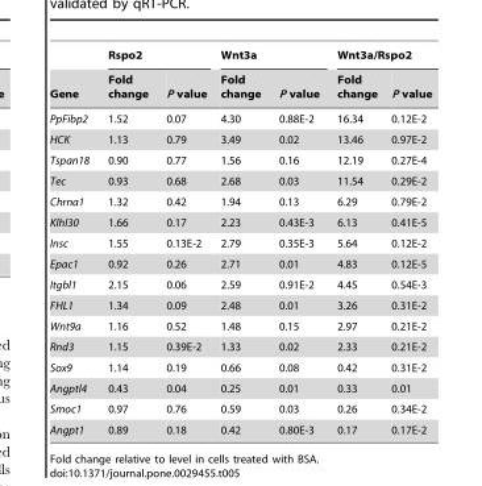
<table><thead><tr><td rowspan="2">Gene</td><td colspan="2">Rspo2</td><td colspan="2">Wnt3a</td><td colspan="2">Wnt3a/Rspo2</td></tr><tr><td>Fold change</td><td>P value</td><td>Fold change</td><td>P value</td><td>Fold change</td><td>P value</td></tr></thead><tbody><tr><td>PpFibp2</td><td>1.52</td><td>0.07</td><td>4.30</td><td>0.88E-2</td><td>16.34</td><td>0.12E-2</td></tr><tr><td>HCK</td><td>1.13</td><td>0.79</td><td>3.49</td><td>0.02</td><td>13.46</td><td>0.97E-2</td></tr><tr><td>Tspan18</td><td>0.90</td><td>0.77</td><td>1.56</td><td>0.16</td><td>12.19</td><td>0.27E-4</td></tr><tr><td>Tec</td><td>0.93</td><td>0.68</td><td>2.68</td><td>0.03</td><td>11.54</td><td>0.29E-2</td></tr><tr><td>Chrna1</td><td>1.32</td><td>0.42</td><td>1.94</td><td>0.13</td><td>6.29</td><td>0.79E-2</td></tr><tr><td>Klhl30</td><td>1.66</td><td>0.17</td><td>2.23</td><td>0.43E-3</td><td>6.13</td><td>0.41E-5</td></tr><tr><td>Insc</td><td>1.55</td><td>0.13E-2</td><td>2.79</td><td>0.35E-3</td><td>5.64</td><td>0.12E-2</td></tr><tr><td>Epac1</td><td>0.92</td><td>0.26</td><td>2.71</td><td>0.01</td><td>4.83</td><td>0.12E-5</td></tr><tr><td>Itgbl1</td><td>2.15</td><td>0.06</td><td>2.59</td><td>0.91E-2</td><td>4.45</td><td>0.54E-3</td></tr><tr><td>FHL1</td><td>1.34</td><td>0.09</td><td>2.48</td><td>0.01</td><td>3.26</td><td>0.31E-2</td></tr><tr><td>Wnt9a</td><td>1.16</td><td>0.52</td><td>1.48</td><td>0.15</td><td>2.97</td><td>0.21E-2</td></tr><tr><td>Rnd3</td><td>1.15</td><td>0.39E-2</td><td>1.33</td><td>0.02</td><td>2.33</td><td>0.21E-2</td></tr><tr><td>Sox9</td><td>1.14</td><td>0.19</td><td>0.66</td><td>0.08</td><td>0.42</td><td>0.31E-2</td></tr><tr><td>Angptl4</td><td>0.43</td><td>0.04</td><td>0.25</td><td>0.01</td><td>0.33</td><td>0.01</td></tr><tr><td>Smoc1</td><td>0.97</td><td>0.76</td><td>0.59</td><td>0.03</td><td>0.26</td><td>0.34E-2</td></tr><tr><td>Angpt1</td><td>0.89</td><td>0.18</td><td>0.42</td><td>0.80E-3</td><td>0.17</td><td>0.17E-2</td></tr></tbody></table>